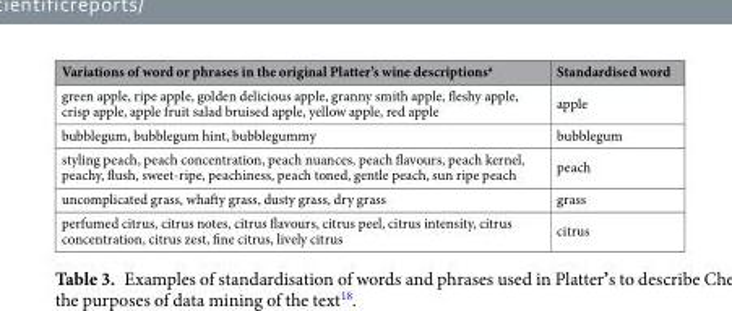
<table><thead><tr><td>Variations of word or phrases in the original Platter’s wine descriptions<sup>a</sup></td><td>Standardised word</td></tr></thead><tbody><tr><td>green apple, ripe apple, golden delicious apple, granny smith apple, fleshy apple, crisp apple, apple fruit salad bruised apple, yellow apple, red apple</td><td>apple</td></tr><tr><td>bubblegum, bubblegum hint, bubblegummy</td><td>bubblegum</td></tr><tr><td>styling peach, peach concentration, peach nuances, peach flavours, peach kernel, peachy, flush, sweet-ripe, peachiness, peach toned, gentle peach, sun ripe peach</td><td>peach</td></tr><tr><td>uncomplicated grass, whafty grass, dusty grass, dry grass</td><td>grass</td></tr><tr><td>perfumed citrus, citrus notes, citrus flavours, citrus peel, citrus intensity, citrus concentration, citrus zest, fine citrus, lively citrus</td><td>citrus</td></tr></tbody></table>